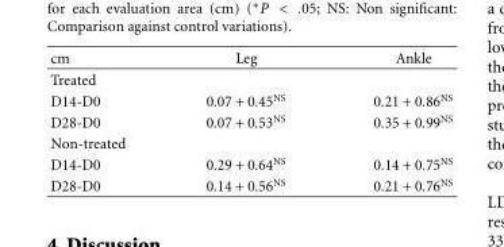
<table><thead><tr><td>cm</td><td>Leg</td><td>Ankle</td></tr></thead><tbody><tr><td colspan="3">Treated</td></tr><tr><td>D14-D0</td><td>0.07 + 0.45<sup>NS</sup></td><td>0.21 + 0.86<sup>NS</sup></td></tr><tr><td>D28-D0</td><td>0.07 + 0.53<sup>NS</sup></td><td>0.35 + 0.99<sup>NS</sup></td></tr><tr><td colspan="3">Non-treated</td></tr><tr><td>D14-D0</td><td>0.29 + 0.64<sup>NS</sup></td><td>0.14 + 0.75<sup>NS</sup></td></tr><tr><td>D28-D0</td><td>0.14 + 0.56<sup>NS</sup></td><td>0.21 + 0.76<sup>NS</sup></td></tr></tbody></table>